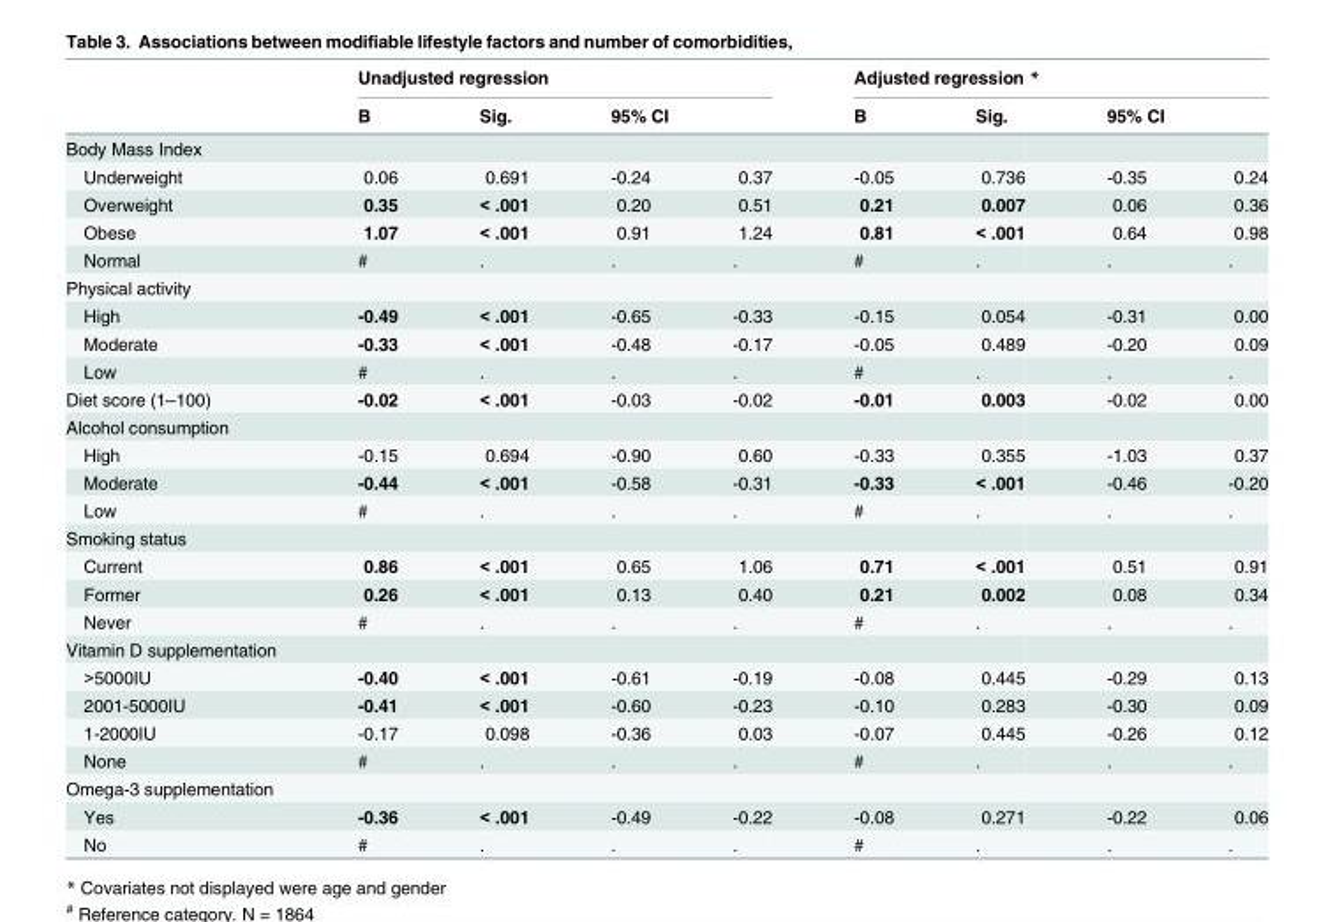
<table><thead><tr><td rowspan="3">Body Mass Index</td><td colspan="4">Unadjusted regression</td><td colspan="4">Adjusted regression *</td></tr><tr><td rowspan="2">B</td><td rowspan="2">Sig.</td><td colspan="2">95% CI</td><td rowspan="2">B</td><td rowspan="2">Sig.</td><td colspan="2">95% CI</td></tr><tr><td></td><td></td><td></td><td></td></tr></thead><tbody><tr><td>Underweight</td><td>0.06</td><td>0.691</td><td>-0.24</td><td>0.37</td><td>-0.05</td><td>0.736</td><td>-0.35</td><td>0.24</td></tr><tr><td>Overweight</td><td>0.35</td><td>&lt; .001</td><td>0.20</td><td>0.51</td><td>0.21</td><td>0.007</td><td>0.06</td><td>0.36</td></tr><tr><td>Obese</td><td>1.07</td><td>&lt; .001</td><td>0.91</td><td>1.24</td><td>0.81</td><td>&lt; .001</td><td>0.64</td><td>0.98</td></tr><tr><td>Normal</td><td>#</td><td>.</td><td>.</td><td>.</td><td>#</td><td>.</td><td>.</td><td>.</td></tr><tr><td colspan="9">Physical activity</td></tr><tr><td>High</td><td>-0.49</td><td>&lt; .001</td><td>-0.65</td><td>-0.33</td><td>-0.15</td><td>0.054</td><td>-0.31</td><td>0.00</td></tr><tr><td>Moderate</td><td>-0.33</td><td>&lt; .001</td><td>-0.48</td><td>-0.17</td><td>-0.05</td><td>0.489</td><td>-0.20</td><td>0.09</td></tr><tr><td>Low</td><td>#</td><td>.</td><td>.</td><td>.</td><td>#</td><td>.</td><td>.</td><td>.</td></tr><tr><td>Diet score (1–100)</td><td>-0.02</td><td>&lt; .001</td><td>-0.03</td><td>-0.02</td><td>-0.01</td><td>0.003</td><td>-0.02</td><td>0.00</td></tr><tr><td colspan="9">Alcohol consumption</td></tr><tr><td>High</td><td>-0.15</td><td>0.694</td><td>-0.90</td><td>0.60</td><td>-0.33</td><td>0.355</td><td>-1.03</td><td>0.37</td></tr><tr><td>Moderate</td><td>-0.44</td><td>&lt; .001</td><td>-0.58</td><td>-0.31</td><td>-0.33</td><td>&lt; .001</td><td>-0.46</td><td>-0.20</td></tr><tr><td>Low</td><td>#</td><td>.</td><td>.</td><td>.</td><td>#</td><td>.</td><td>.</td><td>.</td></tr><tr><td colspan="9">Smoking status</td></tr><tr><td>Current</td><td>0.86</td><td>&lt; .001</td><td>0.65</td><td>1.06</td><td>0.71</td><td>&lt; .001</td><td>0.51</td><td>0.91</td></tr><tr><td>Former</td><td>0.26</td><td>&lt; .001</td><td>0.13</td><td>0.40</td><td>0.21</td><td>0.002</td><td>0.08</td><td>0.34</td></tr><tr><td>Never</td><td>#</td><td>.</td><td>.</td><td>.</td><td>#</td><td>.</td><td>.</td><td>.</td></tr><tr><td colspan="9">Vitamin D supplementation</td></tr><tr><td>&gt;5000IU</td><td>-0.40</td><td>&lt; .001</td><td>-0.61</td><td>-0.19</td><td>-0.08</td><td>0.445</td><td>-0.29</td><td>0.13</td></tr><tr><td>2001-5000IU</td><td>-0.41</td><td>&lt; .001</td><td>-0.60</td><td>-0.23</td><td>-0.10</td><td>0.283</td><td>-0.30</td><td>0.09</td></tr><tr><td>1-2000IU</td><td>-0.17</td><td>0.098</td><td>-0.36</td><td>0.03</td><td>-0.07</td><td>0.445</td><td>-0.26</td><td>0.12</td></tr><tr><td>None</td><td>#</td><td>.</td><td>.</td><td>.</td><td>#</td><td>.</td><td>.</td><td>.</td></tr><tr><td colspan="9">Omega-3 supplementation</td></tr><tr><td>Yes</td><td>-0.36</td><td>&lt; .001</td><td>-0.49</td><td>-0.22</td><td>-0.08</td><td>0.271</td><td>-0.22</td><td>0.06</td></tr><tr><td>No</td><td>#</td><td>.</td><td>.</td><td>.</td><td>#</td><td>.</td><td>.</td><td>.</td></tr></tbody></table>